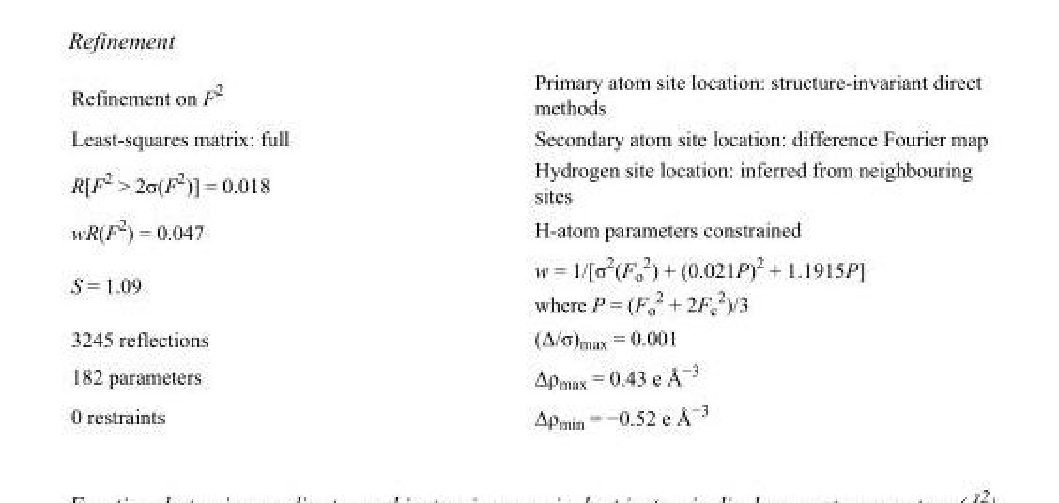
<table><tbody><tr><td>Refinement on F<sup>2</sup></td><td>Primary atom site location: structure-invariant direct methods</td></tr><tr><td>Least-squares matrix: full</td><td>Secondary atom site location: difference Fourier map</td></tr><tr><td>R[F<sup>2</sup> &gt; 2σ(F<sup>2</sup>)] = 0.018</td><td>Hydrogen site location: inferred from neighbouring sites</td></tr><tr><td>wR(F<sup>2</sup>) = 0.047</td><td>H-atom parameters constrained</td></tr><tr><td>S = 1.09</td><td>w = 1/[σ<sup>2</sup>(F<sub>o</sub> <sup>2</sup>) + (0.021P)<sup>2</sup> + 1.1915P] where P = (F<sub>o</sub> <sup>2</sup> + 2F<sub>c</sub> <sup>2</sup>)/3</td></tr><tr><td>3245 reflections</td><td>(Δ/σ)<sub>max</sub> = 0.001</td></tr><tr><td>182 parameters</td><td>Δρ<sub>max</sub> = 0.43 e Å<sup>−3</sup></td></tr><tr><td>0 restraints</td><td>Δρ<sub>min</sub> = −0.52 e Å<sup>−3</sup></td></tr></tbody></table>